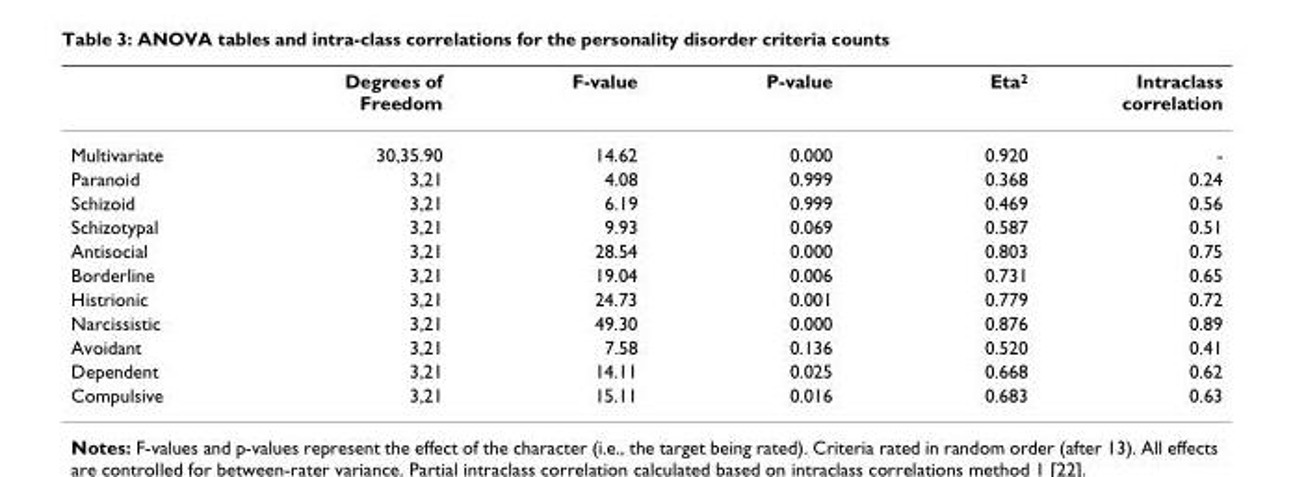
<table><thead><tr><td></td><td>Degrees of Freedom</td><td>F-value</td><td>P-value</td><td>Eta<sup>2</sup></td><td>Intraclass correlation</td></tr></thead><tbody><tr><td>Multivariate</td><td>30,35.90</td><td>14.62</td><td>0.000</td><td>0.920</td><td>-</td></tr><tr><td>Paranoid</td><td>3,21</td><td>4.08</td><td>0.999</td><td>0.368</td><td>0.24</td></tr><tr><td>Schizoid</td><td>3,21</td><td>6.19</td><td>0.999</td><td>0.469</td><td>0.56</td></tr><tr><td>Schizotypal</td><td>3,21</td><td>9.93</td><td>0.069</td><td>0.587</td><td>0.51</td></tr><tr><td>Antisocial</td><td>3,21</td><td>28.54</td><td>0.000</td><td>0.803</td><td>0.75</td></tr><tr><td>Borderline</td><td>3,21</td><td>19.04</td><td>0.006</td><td>0.731</td><td>0.65</td></tr><tr><td>Histrionic</td><td>3,21</td><td>24.73</td><td>0.001</td><td>0.779</td><td>0.72</td></tr><tr><td>Narcissistic</td><td>3,21</td><td>49.30</td><td>0.000</td><td>0.876</td><td>0.89</td></tr><tr><td>Avoidant</td><td>3,21</td><td>7.58</td><td>0.136</td><td>0.520</td><td>0.41</td></tr><tr><td>Dependent</td><td>3,21</td><td>14.11</td><td>0.025</td><td>0.668</td><td>0.62</td></tr><tr><td>Compulsive</td><td>3,21</td><td>15.11</td><td>0.016</td><td>0.683</td><td>0.63</td></tr></tbody></table>